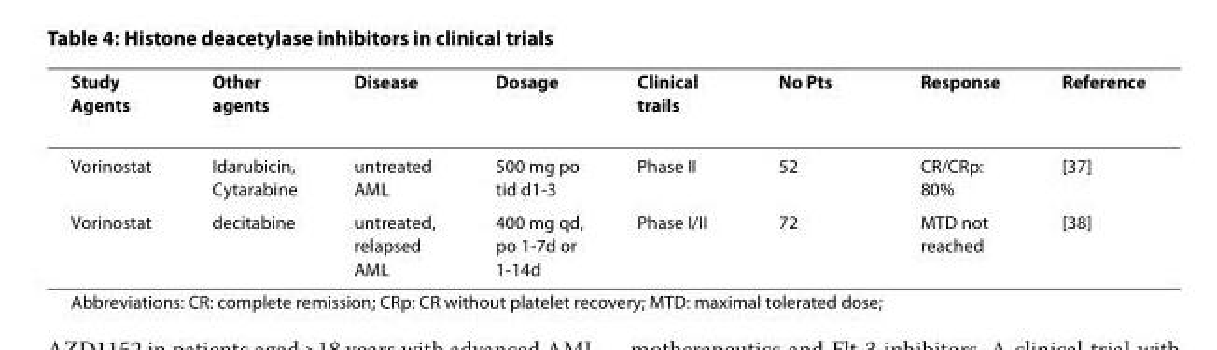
<table><thead><tr><td>Study Agents</td><td>Other agents</td><td>Disease</td><td>Dosage</td><td>Clinical trails</td><td>No Pts</td><td>Response</td><td>Reference</td></tr></thead><tbody><tr><td>Vorinostat</td><td>Idarubicin, Cytarabine</td><td>untreated AML</td><td>500 mg po tid d1-3</td><td>Phase II</td><td>52</td><td>CR/CRp: 80%</td><td>[37]</td></tr><tr><td>Vorinostat</td><td>decitabine</td><td>untreated, relapsed AML</td><td>400 mg qd, po 1-7d or 1-14d</td><td>Phase I/II</td><td>72</td><td>MTD not reached</td><td>[38]</td></tr></tbody></table>